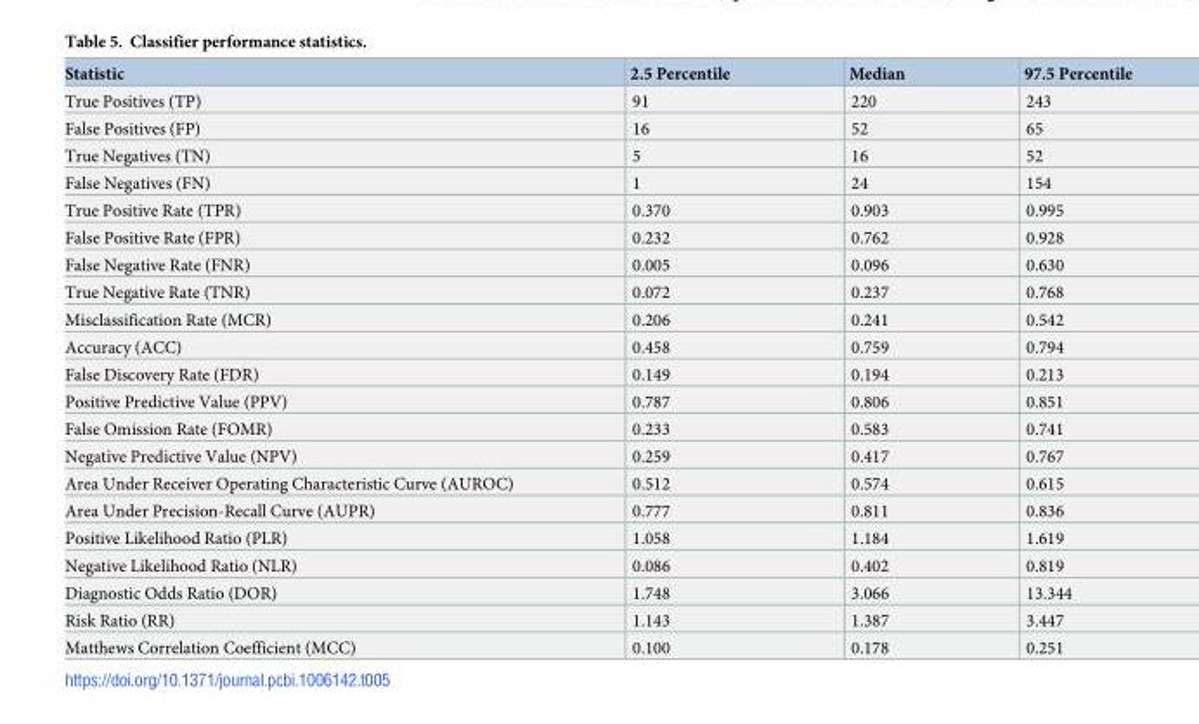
<table><thead><tr><td>Statistic</td><td>2.5 Percentile</td><td>Median</td><td>97.5 Percentile</td></tr></thead><tbody><tr><td>True Positives (TP)</td><td>91</td><td>220</td><td>243</td></tr><tr><td>False Positives (FP)</td><td>16</td><td>52</td><td>65</td></tr><tr><td>True Negatives (TN)</td><td>5</td><td>16</td><td>52</td></tr><tr><td>False Negatives (FN)</td><td>1</td><td>24</td><td>154</td></tr><tr><td>True Positive Rate (TPR)</td><td>0.370</td><td>0.903</td><td>0.995</td></tr><tr><td>False Positive Rate (FPR)</td><td>0.232</td><td>0.762</td><td>0.928</td></tr><tr><td>False Negative Rate (FNR)</td><td>0.005</td><td>0.096</td><td>0.630</td></tr><tr><td>True Negative Rate (TNR)</td><td>0.072</td><td>0.237</td><td>0.768</td></tr><tr><td>Misclassification Rate (MCR)</td><td>0.206</td><td>0.241</td><td>0.542</td></tr><tr><td>Accuracy (ACC)</td><td>0.458</td><td>0.759</td><td>0.794</td></tr><tr><td>False Discovery Rate (FDR)</td><td>0.149</td><td>0.194</td><td>0.213</td></tr><tr><td>Positive Predictive Value (PPV)</td><td>0.787</td><td>0.806</td><td>0.851</td></tr><tr><td>False Omission Rate (FOMR)</td><td>0.233</td><td>0.583</td><td>0.741</td></tr><tr><td>Negative Predictive Value (NPV)</td><td>0.259</td><td>0.417</td><td>0.767</td></tr><tr><td>Area Under Receiver Operating Characteristic Curve (AUROC)</td><td>0.512</td><td>0.574</td><td>0.615</td></tr><tr><td>Area Under Precision-Recall Curve (AUPR)</td><td>0.777</td><td>0.811</td><td>0.836</td></tr><tr><td>Positive Likelihood Ratio (PLR)</td><td>1.058</td><td>1.184</td><td>1.619</td></tr><tr><td>Negative Likelihood Ratio (NLR)</td><td>0.086</td><td>0.402</td><td>0.819</td></tr><tr><td>Diagnostic Odds Ratio (DOR)</td><td>1.748</td><td>3.066</td><td>13.344</td></tr><tr><td>Risk Ratio (RR)</td><td>1.143</td><td>1.387</td><td>3.447</td></tr><tr><td>Matthews Correlation Coefficient (MCC)</td><td>0.100</td><td>0.178</td><td>0.251</td></tr></tbody></table>